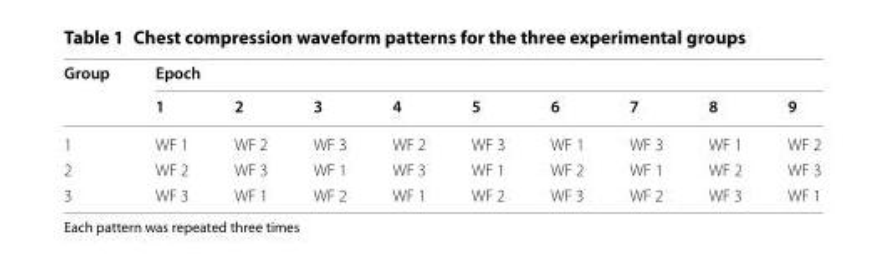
<table><thead><tr><td rowspan="2">Group</td><td colspan="9">Epoch</td></tr><tr><td>1</td><td>2</td><td>3</td><td>4</td><td>5</td><td>6</td><td>7</td><td>8</td><td>9</td></tr></thead><tbody><tr><td>1</td><td>WF 1</td><td>WF 2</td><td>WF 3</td><td>WF 2</td><td>WF 3</td><td>WF 1</td><td>WF 3</td><td>WF 1</td><td>WF 2</td></tr><tr><td>2</td><td>WF 2</td><td>WF 3</td><td>WF 1</td><td>WF 3</td><td>WF 1</td><td>WF 2</td><td>WF 1</td><td>WF 2</td><td>WF 3</td></tr><tr><td>3</td><td>WF 3</td><td>WF 1</td><td>WF 2</td><td>WF 1</td><td>WF 2</td><td>WF 3</td><td>WF 2</td><td>WF 3</td><td>WF 1</td></tr></tbody></table>